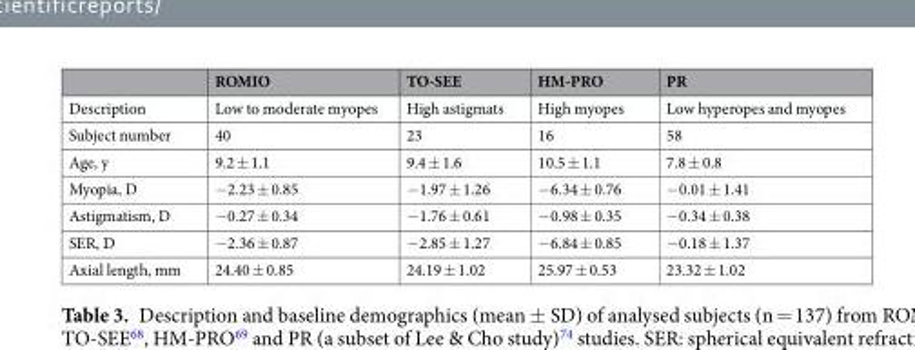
<table><thead><tr><td></td><td>ROMIO</td><td>TO-SEE</td><td>HM-PRO</td><td>PR</td></tr></thead><tbody><tr><td>Description</td><td>Low to moderate myopes</td><td>High astigmats</td><td>High myopes</td><td>Low hyperopes and myopes</td></tr><tr><td>Subject number</td><td>40</td><td>23</td><td>16</td><td>58</td></tr><tr><td>Age, y</td><td>9.2 ± 1.1</td><td>9.4 ± 1.6</td><td>10.5 ± 1.1</td><td>7.8 ± 0.8</td></tr><tr><td>Myopia, D</td><td>−2.23 ± 0.85</td><td>−1.97 ± 1.26</td><td>−6.34 ± 0.76</td><td>−0.01 ± 1.41</td></tr><tr><td>Astigmatism, D</td><td>−0.27 ± 0.34</td><td>−1.76 ± 0.61</td><td>−0.98 ± 0.35</td><td>−0.34 ± 0.38</td></tr><tr><td>SER, D</td><td>−2.36 ± 0.87</td><td>−2.85 ± 1.27</td><td>−6.84 ± 0.85</td><td>−0.18 ± 1.37</td></tr><tr><td>Axial length, mm</td><td>24.40 ± 0.85</td><td>24.19 ± 1.02</td><td>25.97 ± 0.53</td><td>23.32 ± 1.02</td></tr></tbody></table>